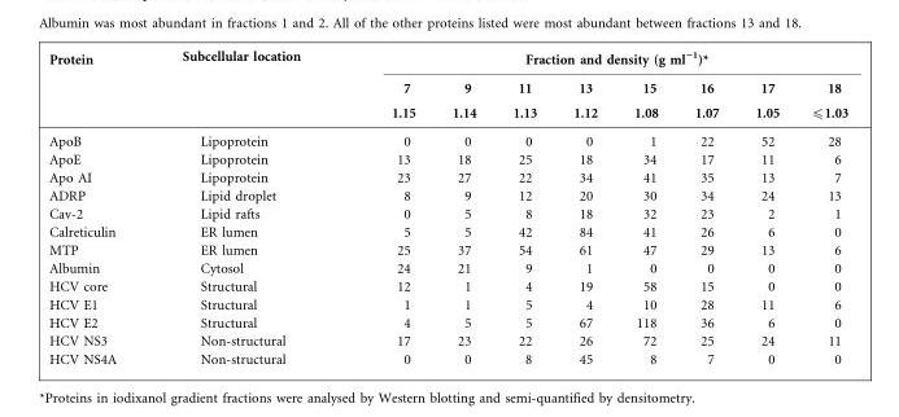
<table><thead><tr><td rowspan="3">Protein</td><td rowspan="3">Subcellular location</td><td colspan="8">Fraction and density (g ml”1)*</td></tr><tr><td rowspan="2">7 1.15</td><td rowspan="2">9 1.14</td><td rowspan="2">11 1.13</td><td rowspan="2">13 1.12</td><td rowspan="2">15 1.08</td><td rowspan="2">16 1.07</td><td rowspan="2">17 1.05</td><td rowspan="2">18 ≤1.03</td></tr><tr></tr></thead><tbody><tr><td>ApoB</td><td>Lipoprotein</td><td>0</td><td>0</td><td>0</td><td>0</td><td>1</td><td>22</td><td>52</td><td>28</td></tr><tr><td>ApoE</td><td>Lipoprotein</td><td>13</td><td>18</td><td>25</td><td>18</td><td>34</td><td>17</td><td>11</td><td>6</td></tr><tr><td>Apo AI</td><td>Lipoprotein</td><td>23</td><td>27</td><td>22</td><td>34</td><td>41</td><td>35</td><td>13</td><td>7</td></tr><tr><td>ADRP</td><td>Lipid droplet</td><td>8</td><td>9</td><td>12</td><td>20</td><td>30</td><td>34</td><td>24</td><td>13</td></tr><tr><td>Cav-2</td><td>Lipid rafts</td><td>0</td><td>5</td><td>8</td><td>18</td><td>32</td><td>23</td><td>2</td><td>1</td></tr><tr><td>Calreticulin</td><td>ER lumen</td><td>5</td><td>5</td><td>42</td><td>84</td><td>41</td><td>26</td><td>6</td><td>0</td></tr><tr><td>MTP</td><td>ER lumen</td><td>25</td><td>37</td><td>54</td><td>61</td><td>47</td><td>29</td><td>13</td><td>6</td></tr><tr><td>Albumin</td><td>Cytosol</td><td>24</td><td>21</td><td>9</td><td>1</td><td>0</td><td>0</td><td>0</td><td>0</td></tr><tr><td>HCV core</td><td>Structural</td><td>12</td><td>1</td><td>4</td><td>19</td><td>58</td><td>15</td><td>0</td><td>0</td></tr><tr><td>HCV E1</td><td>Structural</td><td>1</td><td>1</td><td>5</td><td>4</td><td>10</td><td>28</td><td>11</td><td>6</td></tr><tr><td>HCV E2</td><td>Structural</td><td>4</td><td>5</td><td>5</td><td>67</td><td>118</td><td>36</td><td>6</td><td>0</td></tr><tr><td>HCV NS3</td><td>Non-structural</td><td>17</td><td>23</td><td>22</td><td>26</td><td>72</td><td>25</td><td>24</td><td>11</td></tr><tr><td>HCV NS4A</td><td>Non-structural</td><td>0</td><td>0</td><td>8</td><td>45</td><td>8</td><td>7</td><td>0</td><td>0</td></tr></tbody></table>